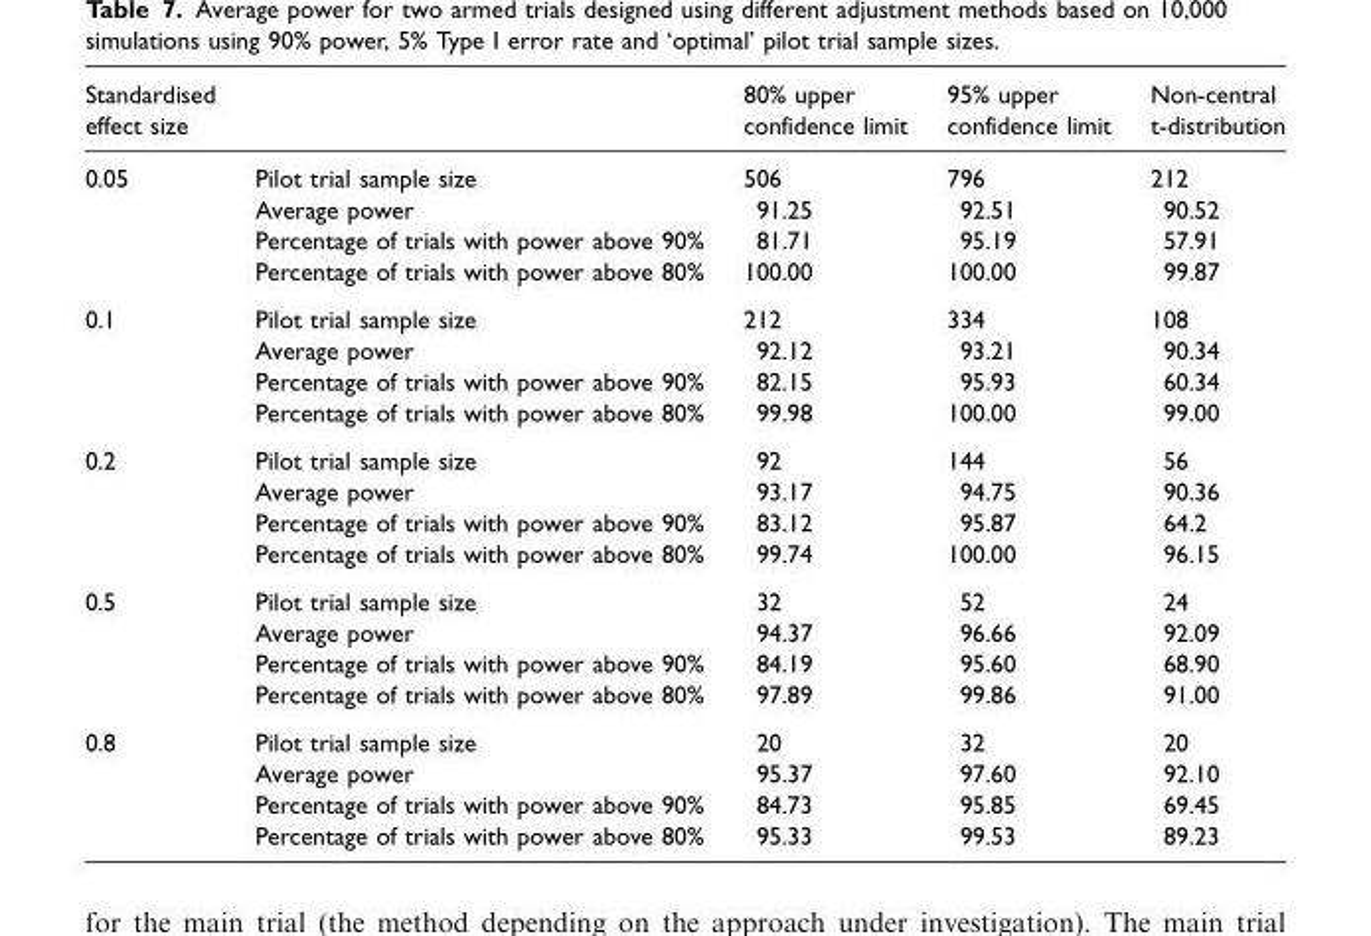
<table><thead><tr><td>Standardised effect size</td><td></td><td>80% upper confidence limit</td><td>95% upper confidence limit</td><td>Non-central t-distribution</td></tr></thead><tbody><tr><td rowspan="4">0.05</td><td>Pilot trial sample size</td><td>506</td><td>796</td><td>212</td></tr><tr><td>Average power</td><td>91.25</td><td>92.51</td><td>90.52</td></tr><tr><td>Percentage of trials with power above 90%</td><td>81.71</td><td>95.19</td><td>57.91</td></tr><tr><td>Percentage of trials with power above 80%</td><td>100.00</td><td>100.00</td><td>99.87</td></tr><tr><td rowspan="4">0.1</td><td>Pilot trial sample size</td><td>212</td><td>334</td><td>108</td></tr><tr><td>Average power</td><td>92.12</td><td>93.21</td><td>90.34</td></tr><tr><td>Percentage of trials with power above 90%</td><td>82.15</td><td>95.93</td><td>60.34</td></tr><tr><td>Percentage of trials with power above 80%</td><td>99.98</td><td>100.00</td><td>99.00</td></tr><tr><td rowspan="4">0.2</td><td>Pilot trial sample size</td><td>92</td><td>144</td><td>56</td></tr><tr><td>Average power</td><td>93.17</td><td>94.75</td><td>90.36</td></tr><tr><td>Percentage of trials with power above 90%</td><td>83.12</td><td>95.87</td><td>64.2</td></tr><tr><td>Percentage of trials with power above 80%</td><td>99.74</td><td>100.00</td><td>96.15</td></tr><tr><td rowspan="4">0.5</td><td>Pilot trial sample size</td><td>32</td><td>52</td><td>24</td></tr><tr><td>Average power</td><td>94.37</td><td>96.66</td><td>92.09</td></tr><tr><td>Percentage of trials with power above 90%</td><td>84.19</td><td>95.60</td><td>68.90</td></tr><tr><td>Percentage of trials with power above 80%</td><td>97.89</td><td>99.86</td><td>91.00</td></tr><tr><td rowspan="4">0.8</td><td>Pilot trial sample size</td><td>20</td><td>32</td><td>20</td></tr><tr><td>Average power</td><td>95.37</td><td>97.60</td><td>92.10</td></tr><tr><td>Percentage of trials with power above 90%</td><td>84.73</td><td>95.85</td><td>69.45</td></tr><tr><td>Percentage of trials with power above 80%</td><td>95.33</td><td>99.53</td><td>89.23</td></tr></tbody></table>